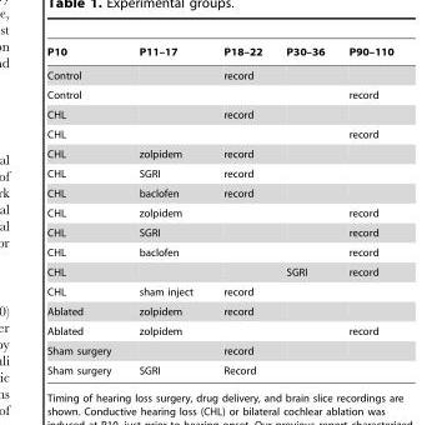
<table><thead><tr><td>P10</td><td>P11–17</td><td>P18–22</td><td>P30–36</td><td>P90–110</td></tr></thead><tbody><tr><td>Control</td><td></td><td>record</td><td></td><td></td></tr><tr><td>Control</td><td></td><td></td><td></td><td>record</td></tr><tr><td>CHL</td><td></td><td>record</td><td></td><td></td></tr><tr><td>CHL</td><td></td><td></td><td></td><td>record</td></tr><tr><td>CHL</td><td>zolpidem</td><td>record</td><td></td><td></td></tr><tr><td>CHL</td><td>SGRI</td><td>record</td><td></td><td></td></tr><tr><td>CHL</td><td>baclofen</td><td>record</td><td></td><td></td></tr><tr><td>CHL</td><td>zolpidem</td><td></td><td></td><td>record</td></tr><tr><td>CHL</td><td>SGRI</td><td></td><td></td><td>record</td></tr><tr><td>CHL</td><td>baclofen</td><td></td><td></td><td>record</td></tr><tr><td>CHL</td><td></td><td></td><td>SGRI</td><td>record</td></tr><tr><td>CHL</td><td>sham inject</td><td>record</td><td></td><td></td></tr><tr><td>Ablated</td><td>zolpidem</td><td>record</td><td></td><td></td></tr><tr><td>Ablated</td><td>zolpidem</td><td></td><td></td><td>record</td></tr><tr><td>Sham surgery</td><td></td><td>record</td><td></td><td></td></tr><tr><td>Sham surgery</td><td>SGRI</td><td>Record</td><td></td><td></td></tr></tbody></table>